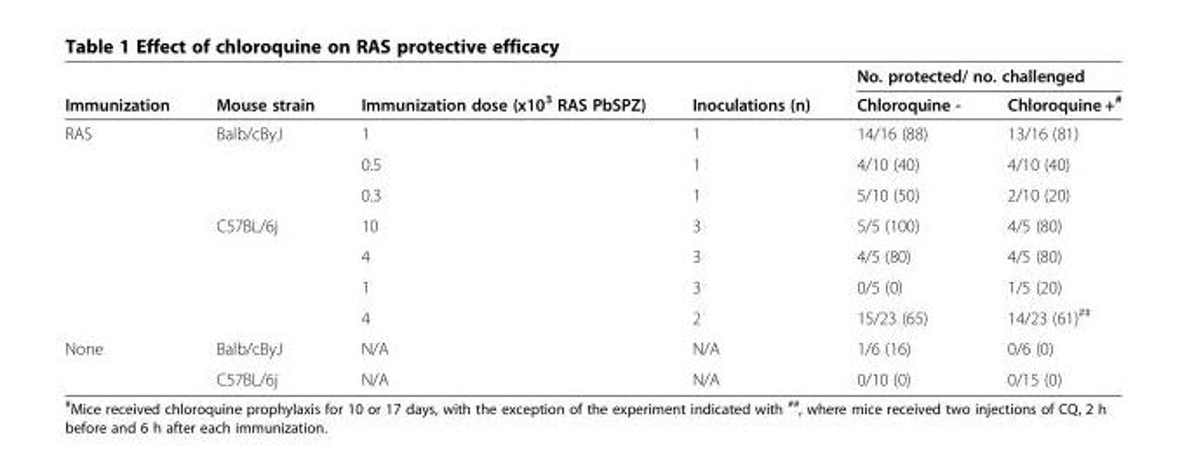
<table><thead><tr><td rowspan="2">Immunization</td><td rowspan="2">Mouse strain</td><td rowspan="2">Immunization dose (x10<sup>3</sup> RAS PbSPZ)</td><td rowspan="2">Inoculations (n)</td><td colspan="2">No. protected/ no. challenged</td></tr><tr><td>Chloroquine -</td><td>Chloroquine +<sup>#</sup></td></tr></thead><tbody><tr><td rowspan="7">RAS</td><td>Balb/cByJ</td><td>1</td><td>1</td><td>14/16 (88)</td><td>13/16 (81)</td></tr><tr><td></td><td>0.5</td><td>1</td><td>4/10 (40)</td><td>4/10 (40)</td></tr><tr><td></td><td>0.3</td><td>1</td><td>5/10 (50)</td><td>2/10 (20)</td></tr><tr><td>C57BL/6j</td><td>10</td><td>3</td><td>5/5 (100)</td><td>4/5 (80)</td></tr><tr><td></td><td>4</td><td>3</td><td>4/5 (80)</td><td>4/5 (80)</td></tr><tr><td></td><td>1</td><td>3</td><td>0/5 (0)</td><td>1/5 (20)</td></tr><tr><td></td><td>4</td><td>2</td><td>15/23 (65)</td><td>14/23 (61)<sup>##</sup></td></tr><tr><td rowspan="2">None</td><td>Balb/cByJ</td><td>N/A</td><td>N/A</td><td>1/6 (16)</td><td>0/6 (0)</td></tr><tr><td>C57BL/6j</td><td>N/A</td><td>N/A</td><td>0/10 (0)</td><td>0/15 (0)</td></tr></tbody></table>